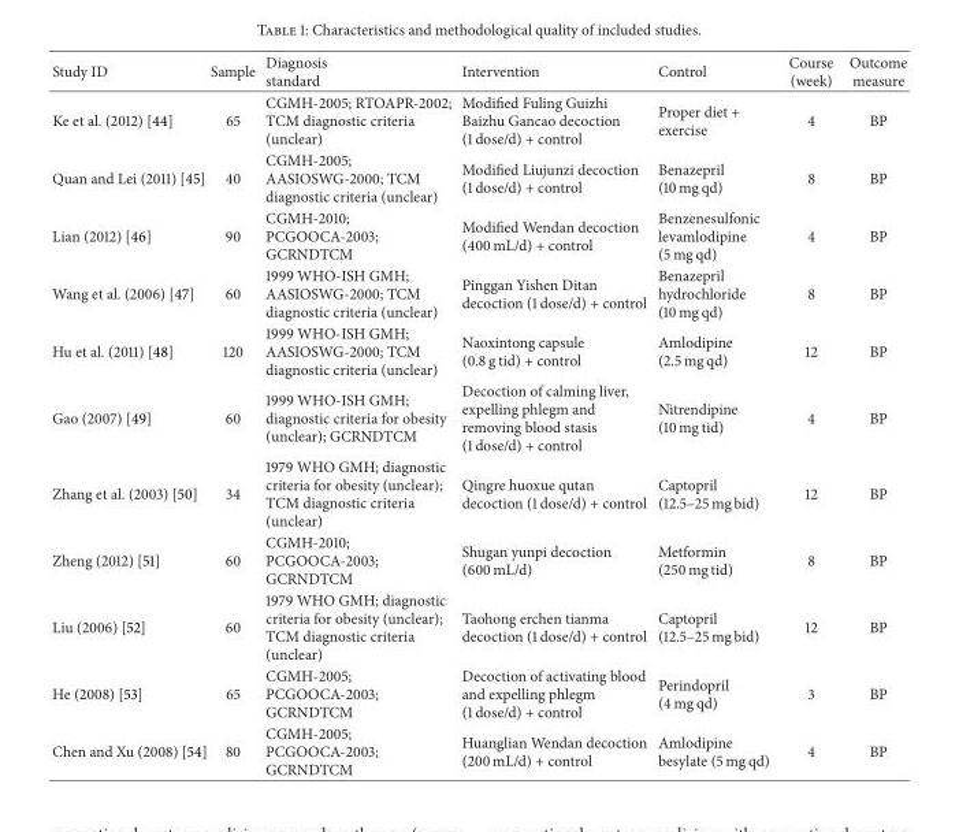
<table><thead><tr><td>Study ID</td><td>Sample</td><td>Diagnosis standard</td><td>Intervention</td><td>Control</td><td>Course (week)</td><td>Outcome measure</td></tr></thead><tbody><tr><td>Ke et al. (2012) [44]</td><td>65</td><td>CGMH-2005; RTOAPR-2002; TCM diagnostic criteria (unclear)</td><td>Modified Fuling Guizhi Baizhu Gancao decoction (1 dose/d) + control</td><td>Proper diet + exercise</td><td>4</td><td>BP</td></tr><tr><td>Quan and Lei (2011) [45]</td><td>40</td><td>CGMH-2005; AASIOSWG-2000; TCM diagnostic criteria (unclear)</td><td>Modified Liujunzi decoction (1 dose/d) + control</td><td>Benazepril (10 mg qd)</td><td>8</td><td>BP</td></tr><tr><td>Lian (2012) [46]</td><td>90</td><td>CGMH-2010; PCGOOCA-2003; GCRNDTCM</td><td>Modified Wendan decoction (400 mL/d) + control</td><td>Benzenesulfonic levamlodipine (5 mg qd)</td><td>4</td><td>BP</td></tr><tr><td>Wang et al. (2006) [47]</td><td>60</td><td>1999 WHO-ISH GMH; AASIOSWG-2000; TCM diagnostic criteria (unclear)</td><td>Pinggan Yishen Ditan decoction (1 dose/d) + control</td><td>Benazepril hydrochloride (10 mg qd)</td><td>8</td><td>BP</td></tr><tr><td>Hu et al. (2011) [48]</td><td>120</td><td>1999 WHO-ISH GMH; AASIOSWG-2000; TCM diagnostic criteria (unclear)</td><td>Naoxintong capsule (0.8 g tid) + control</td><td>Amlodipine (2.5 mg qd)</td><td>12</td><td>BP</td></tr><tr><td>Gao (2007) [49]</td><td>60</td><td>1999 WHO-ISH GMH; diagnostic criteria for obesity (unclear); GCRNDTCM</td><td>Decoction of calming liver, expelling phlegm and removing blood stasis (1 dose/d) + control</td><td>Nitrendipine (10 mg tid)</td><td>4</td><td>BP</td></tr><tr><td>Zhang et al. (2003) [50]</td><td>34</td><td>1979 WHO GMH; diagnostic criteria for obesity (unclear); TCM diagnostic criteria (unclear)</td><td>Qingre huoxue qutan decoction (1 dose/d) + control</td><td>Captopril (12.5–25 mg bid)</td><td>12</td><td>BP</td></tr><tr><td>Zheng (2012) [51]</td><td>60</td><td>CGMH-2010; PCGOOCA-2003; GCRNDTCM</td><td>Shugan yunpi decoction (600 mL/d)</td><td>Metformin (250 mg tid)</td><td>8</td><td>BP</td></tr><tr><td>Liu (2006) [52]</td><td>60</td><td>1979 WHO GMH; diagnostic criteria for obesity (unclear); TCM diagnostic criteria (unclear)</td><td>Taohong erchen tianma decoction (1 dose/d) + control</td><td>Captopril (12.5–25 mg bid)</td><td>12</td><td>BP</td></tr><tr><td>He (2008) [53]</td><td>65</td><td>CGMH-2005; PCGOOCA-2003; GCRNDTCM</td><td>Decoction of activating blood and expelling phlegm (1 dose/d) + control</td><td>Perindopril (4 mg qd)</td><td>3</td><td>BP</td></tr><tr><td>Chen and Xu (2008) [54]</td><td>80</td><td>CGMH-2005; PCGOOCA-2003; GCRNDTCM</td><td>Huanglian Wendan decoction (200 mL/d) + control</td><td>Amlodipine besylate (5 mg qd)</td><td>4</td><td>BP</td></tr></tbody></table>